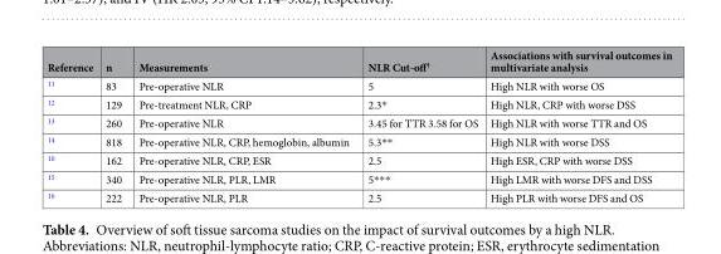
<table><thead><tr><td>Reference</td><td>n</td><td>Measurements</td><td>NLR Cut-off<sup>†</sup></td><td>Associations with survival outcomes in multivariate analysis</td></tr></thead><tbody><tr><td><sup>11</sup></td><td>83</td><td>Pre-operative NLR</td><td>5</td><td>High NLR with worse OS</td></tr><tr><td><sup>12</sup></td><td>129</td><td>Pre-treatment NLR, CRP</td><td>2.3*</td><td>High NLR, CRP with worse DSS</td></tr><tr><td><sup>13</sup></td><td>260</td><td>Pre-operative NLR</td><td>3.45 for TTR 3.58 for OS</td><td>High NLR with worse TTR and OS</td></tr><tr><td><sup>14</sup></td><td>818</td><td>Pre-operative NLR, CRP, hemoglobin, albumin</td><td>5.3**</td><td>High NLR with worse DSS</td></tr><tr><td><sup>10</sup></td><td>162</td><td>Pre-operative NLR, CRP, ESR</td><td>2.5</td><td>High ESR, CRP with worse DSS</td></tr><tr><td><sup>15</sup></td><td>340</td><td>Pre-operative NLR, PLR, LMR</td><td>5***</td><td>High LMR with worse DFS and DSS</td></tr><tr><td><sup>16</sup></td><td>222</td><td>Pre-operative NLR, PLR</td><td>2.5</td><td>High PLR with worse DFS and OS</td></tr></tbody></table>